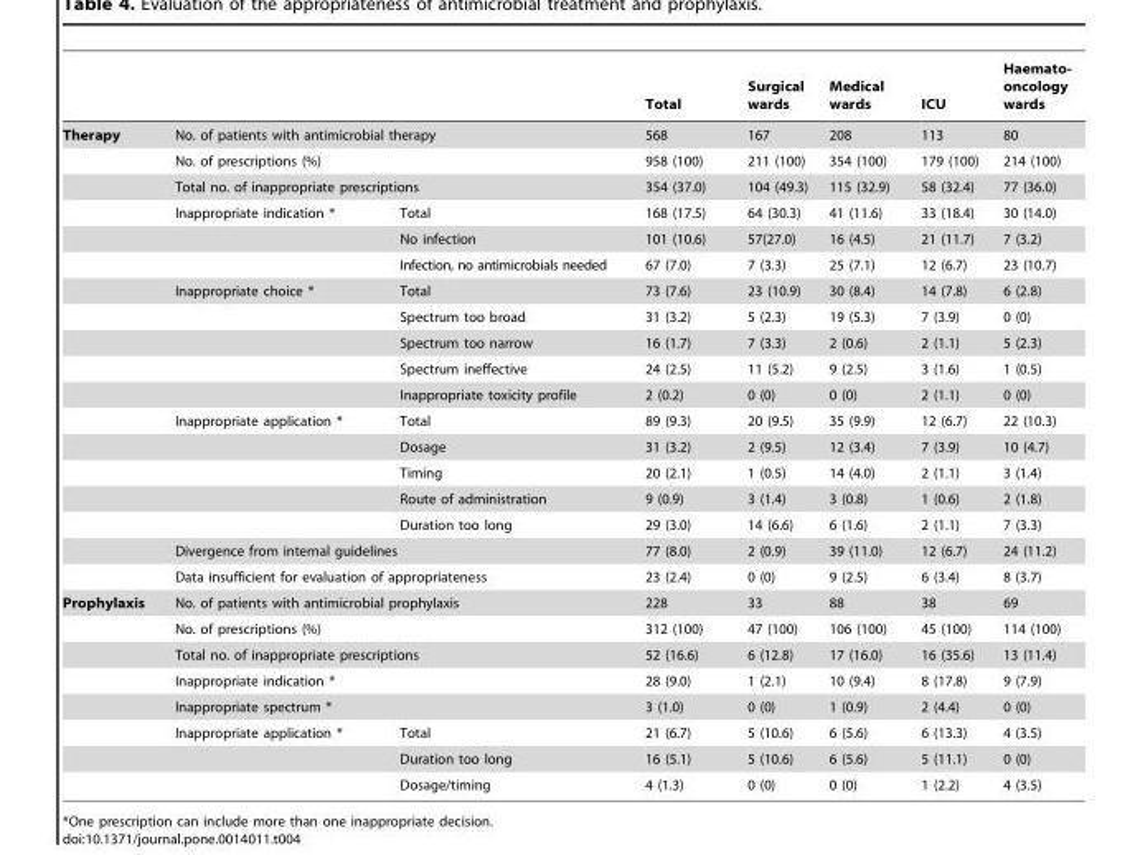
<table><thead><tr><td></td><td></td><td></td><td>Total</td><td>Surgical wards</td><td>Medical wards</td><td>ICU</td><td>Haemato- oncology wards</td></tr></thead><tbody><tr><td rowspan="18">Therapy</td><td colspan="2">No. of patients with antimicrobial therapy</td><td>568</td><td>167</td><td>208</td><td>113</td><td>80</td></tr><tr><td colspan="2">No. of prescriptions (%)</td><td>958 (100)</td><td>211 (100)</td><td>354 (100)</td><td>179 (100)</td><td>214 (100)</td></tr><tr><td colspan="2">Total no. of inappropriate prescriptions</td><td>354 (37.0)</td><td>104 (49.3)</td><td>115 (32.9)</td><td>58 (32.4)</td><td>77 (36.0)</td></tr><tr><td>Inappropriate indication *</td><td>Total</td><td>168 (17.5)</td><td>64 (30.3)</td><td>41 (11.6)</td><td>33 (18.4)</td><td>30 (14.0)</td></tr><tr><td></td><td>No infection</td><td>101 (10.6)</td><td>57(27.0)</td><td>16 (4.5)</td><td>21 (11.7)</td><td>7 (3.2)</td></tr><tr><td></td><td>Infection, no antimicrobials needed</td><td>67 (7.0)</td><td>7 (3.3)</td><td>25 (7.1)</td><td>12 (6.7)</td><td>23 (10.7)</td></tr><tr><td>Inappropriate choice *</td><td>Total</td><td>73 (7.6)</td><td>23 (10.9)</td><td>30 (8.4)</td><td>14 (7.8)</td><td>6 (2.8)</td></tr><tr><td></td><td>Spectrum too broad</td><td>31 (3.2)</td><td>5 (2.3)</td><td>19 (5.3)</td><td>7 (3.9)</td><td>0 (0)</td></tr><tr><td></td><td>Spectrum too narrow</td><td>16 (1.7)</td><td>7 (3.3)</td><td>2 (0.6)</td><td>2 (1.1)</td><td>5 (2.3)</td></tr><tr><td></td><td>Spectrum ineffective</td><td>24 (2.5)</td><td>11 (5.2)</td><td>9 (2.5)</td><td>3 (1.6)</td><td>1 (0.5)</td></tr><tr><td></td><td>Inappropriate toxicity profile</td><td>2 (0.2)</td><td>0 (0)</td><td>0 (0)</td><td>2 (1.1)</td><td>0 (0)</td></tr><tr><td>Inappropriate application *</td><td>Total</td><td>89 (9.3)</td><td>20 (9.5)</td><td>35 (9.9)</td><td>12 (6.7)</td><td>22 (10.3)</td></tr><tr><td></td><td>Dosage</td><td>31 (3.2)</td><td>2 (9.5)</td><td>12 (3.4)</td><td>7 (3.9)</td><td>10 (4.7)</td></tr><tr><td></td><td>Timing</td><td>20 (2.1)</td><td>1 (0.5)</td><td>14 (4.0)</td><td>2 (1.1)</td><td>3 (1.4)</td></tr><tr><td></td><td>Route of administration</td><td>9 (0.9)</td><td>3 (1.4)</td><td>3 (0.8)</td><td>1 (0.6)</td><td>2 (1.8)</td></tr><tr><td></td><td>Duration too long</td><td>29 (3.0)</td><td>14 (6.6)</td><td>6 (1.6)</td><td>2 (1.1)</td><td>7 (3.3)</td></tr><tr><td colspan="2">Divergence from internal guidelines</td><td>77 (8.0)</td><td>2 (0.9)</td><td>39 (11.0)</td><td>12 (6.7)</td><td>24 (11.2)</td></tr><tr><td colspan="2">Data insufficient for evaluation of appropriateness</td><td>23 (2.4)</td><td>0 (0)</td><td>9 (2.5)</td><td>6 (3.4)</td><td>8 (3.7)</td></tr><tr><td rowspan="8">Prophylaxis</td><td colspan="2">No. of patients with antimicrobial prophylaxis</td><td>228</td><td>33</td><td>88</td><td>38</td><td>69</td></tr><tr><td colspan="2">No. of prescriptions (%)</td><td>312 (100)</td><td>47 (100)</td><td>106 (100)</td><td>45 (100)</td><td>114 (100)</td></tr><tr><td colspan="2">Total no. of inappropriate prescriptions</td><td>52 (16.6)</td><td>6 (12.8)</td><td>17 (16.0)</td><td>16 (35.6)</td><td>13 (11.4)</td></tr><tr><td colspan="2">Inappropriate indication *</td><td>28 (9.0)</td><td>1 (2.1)</td><td>10 (9.4)</td><td>8 (17.8)</td><td>9 (7.9)</td></tr><tr><td colspan="2">Inappropriate spectrum *</td><td>3 (1.0)</td><td>0 (0)</td><td>1 (0.9)</td><td>2 (4.4)</td><td>0 (0)</td></tr><tr><td>Inappropriate application *</td><td>Total</td><td>21 (6.7)</td><td>5 (10.6)</td><td>6 (5.6)</td><td>6 (13.3)</td><td>4 (3.5)</td></tr><tr><td></td><td>Duration too long</td><td>16 (5.1)</td><td>5 (10.6)</td><td>6 (5.6)</td><td>5 (11.1)</td><td>0 (0)</td></tr><tr><td></td><td>Dosage/timing</td><td>4 (1.3)</td><td>0 (0)</td><td>0 (0)</td><td>1 (2.2)</td><td>4 (3.5)</td></tr></tbody></table>